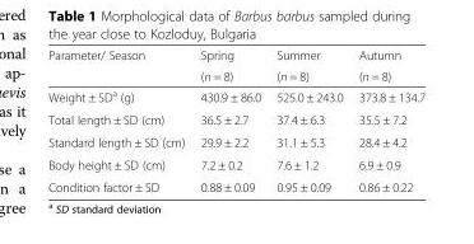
<table><thead><tr><td rowspan="2">Parameter/ Season</td><td rowspan="2">Spring (n = 8)</td><td rowspan="2">Summer (n = 8)</td><td rowspan="2">Autumn (n = 8)</td></tr><tr></tr></thead><tbody><tr><td>Weight ± SD<sup>a</sup> (g)</td><td>430.9 ± 86.0</td><td>525.0 ± 243.0</td><td>373.8 ± 134.7</td></tr><tr><td>Total length ± SD (cm)</td><td>36.5 ± 2.7</td><td>37.4 ± 6.3</td><td>35.5 ± 7.2</td></tr><tr><td>Standard length ± SD (cm)</td><td>29.9 ± 2.2</td><td>31.1 ± 5.3</td><td>28.4 ± 4.2</td></tr><tr><td>Body height ± SD (cm)</td><td>7.2 ± 0.2</td><td>7.6 ± 1.2</td><td>6.9 ± 0.9</td></tr><tr><td>Condition factor ± SD</td><td>0.88 ± 0.09</td><td>0.95 ± 0.09</td><td>0.86 ± 0.22</td></tr></tbody></table>